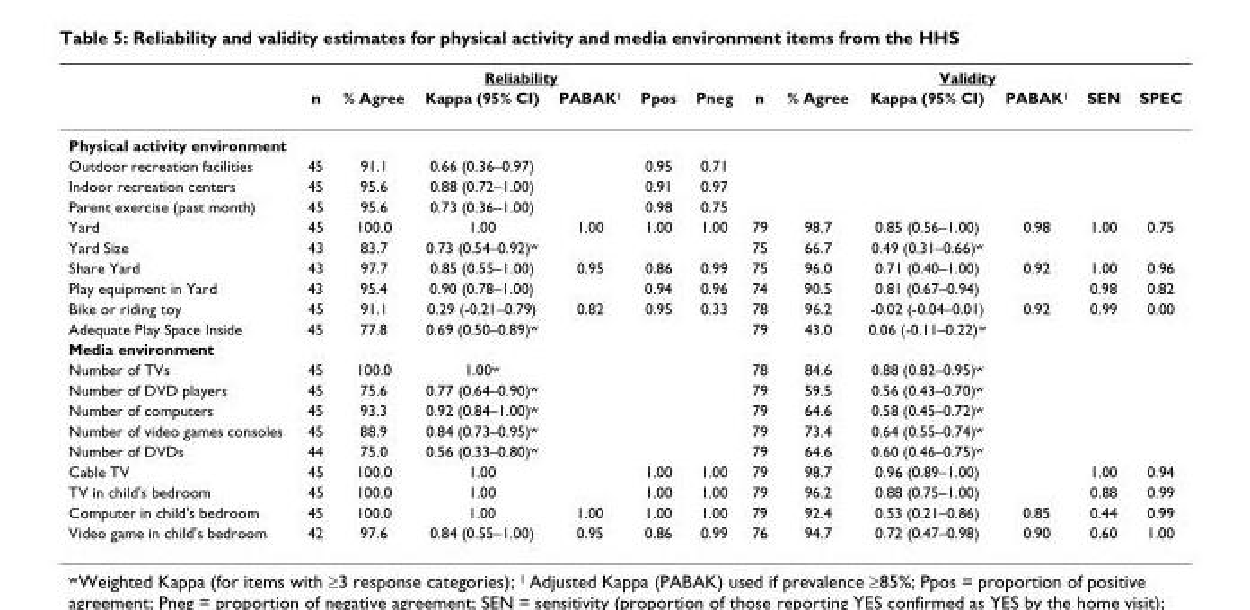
<table><thead><tr><td rowspan="2"></td><td colspan="6">Reliability</td><td colspan="6">Validity</td></tr><tr><td>n</td><td>% Agree</td><td>Kappa (95% CI)</td><td>PABAK<sup>1</sup></td><td>Ppos</td><td>Pneg</td><td>n</td><td>% Agree</td><td>Kappa (95% CI)</td><td>PABAK<sup>1</sup></td><td>SEN</td><td>SPEC</td></tr></thead><tbody><tr><td colspan="13">Physical activity environment</td></tr><tr><td>Outdoor recreation facilities</td><td>45</td><td>91.1</td><td>0.66 (0.36–0.97)</td><td></td><td>0.95</td><td>0.71</td><td></td><td></td><td></td><td></td><td></td><td></td></tr><tr><td>Indoor recreation centers</td><td>45</td><td>95.6</td><td>0.88 (0.72–1.00)</td><td></td><td>0.91</td><td>0.97</td><td></td><td></td><td></td><td></td><td></td><td></td></tr><tr><td>Parent exercise (past month)</td><td>45</td><td>95.6</td><td>0.73 (0.36–1.00)</td><td></td><td>0.98</td><td>0.75</td><td></td><td></td><td></td><td></td><td></td><td></td></tr><tr><td>Yard</td><td>45</td><td>100.0</td><td>1.00</td><td>1.00</td><td>1.00</td><td>1.00</td><td>79</td><td>98.7</td><td>0.85 (0.56–1.00)</td><td>0.98</td><td>1.00</td><td>0.75</td></tr><tr><td>Yard Size</td><td>43</td><td>83.7</td><td>0.73 (0.54–0.92)<sup>w</sup></td><td></td><td></td><td></td><td>75</td><td>66.7</td><td>0.49 (0.31–0.66)<sup>w</sup></td><td></td><td></td><td></td></tr><tr><td>Share Yard</td><td>43</td><td>97.7</td><td>0.85 (0.55–1.00)</td><td>0.95</td><td>0.86</td><td>0.99</td><td>75</td><td>96.0</td><td>0.71 (0.40–1.00)</td><td>0.92</td><td>1.00</td><td>0.96</td></tr><tr><td>Play equipment in Yard</td><td>43</td><td>95.4</td><td>0.90 (0.78–1.00)</td><td></td><td>0.94</td><td>0.96</td><td>74</td><td>90.5</td><td>0.81 (0.67–0.94)</td><td></td><td>0.98</td><td>0.82</td></tr><tr><td>Bike or riding toy</td><td>45</td><td>91.1</td><td>0.29 (-0.21–0.79)</td><td>0.82</td><td>0.95</td><td>0.33</td><td>78</td><td>96.2</td><td>-0.02 (-0.04–0.01)</td><td>0.92</td><td>0.99</td><td>0.00</td></tr><tr><td>Adequate Play Space Inside</td><td>45</td><td>77.8</td><td>0.69 (0.50–0.89)<sup>w</sup></td><td></td><td></td><td></td><td>79</td><td>43.0</td><td>0.06 (-0.11–0.22)<sup>w</sup></td><td></td><td></td><td></td></tr><tr><td colspan="13">Media environment</td></tr><tr><td>Number of TVs</td><td>45</td><td>100.0</td><td>1.00<sup>w</sup></td><td></td><td></td><td></td><td>78</td><td>84.6</td><td>0.88 (0.82–0.95)<sup>w</sup></td><td></td><td></td><td></td></tr><tr><td>Number of DVD players</td><td>45</td><td>75.6</td><td>0.77 (0.64–0.90)<sup>w</sup></td><td></td><td></td><td></td><td>79</td><td>59.5</td><td>0.56 (0.43–0.70)<sup>w</sup></td><td></td><td></td><td></td></tr><tr><td>Number of computers</td><td>45</td><td>93.3</td><td>0.92 (0.84–1.00)<sup>w</sup></td><td></td><td></td><td></td><td>79</td><td>64.6</td><td>0.58 (0.45–0.72)<sup>w</sup></td><td></td><td></td><td></td></tr><tr><td>Number of video games consoles</td><td>45</td><td>88.9</td><td>0.84 (0.73–0.95)<sup>w</sup></td><td></td><td></td><td></td><td>79</td><td>73.4</td><td>0.64 (0.55–0.74)<sup>w</sup></td><td></td><td></td><td></td></tr><tr><td>Number of DVDs</td><td>44</td><td>75.0</td><td>0.56 (0.33–0.80)<sup>w</sup></td><td></td><td></td><td></td><td>79</td><td>64.6</td><td>0.60 (0.46–0.75)<sup>w</sup></td><td></td><td></td><td></td></tr><tr><td>Cable TV</td><td>45</td><td>100.0</td><td>1.00</td><td></td><td>1.00</td><td>1.00</td><td>79</td><td>98.7</td><td>0.96 (0.89–1.00)</td><td></td><td>1.00</td><td>0.94</td></tr><tr><td>TV in child&#x27;s bedroom</td><td>45</td><td>100.0</td><td>1.00</td><td></td><td>1.00</td><td>1.00</td><td>79</td><td>96.2</td><td>0.88 (0.75–1.00)</td><td></td><td>0.88</td><td>0.99</td></tr><tr><td>Computer in child&#x27;s bedroom</td><td>45</td><td>100.0</td><td>1.00</td><td>1.00</td><td>1.00</td><td>1.00</td><td>79</td><td>92.4</td><td>0.53 (0.21–0.86)</td><td>0.85</td><td>0.44</td><td>0.99</td></tr><tr><td>Video game in child&#x27;s bedroom</td><td>42</td><td>97.6</td><td>0.84 (0.55–1.00)</td><td>0.95</td><td>0.86</td><td>0.99</td><td>76</td><td>94.7</td><td>0.72 (0.47–0.98)</td><td>0.90</td><td>0.60</td><td>1.00</td></tr></tbody></table>